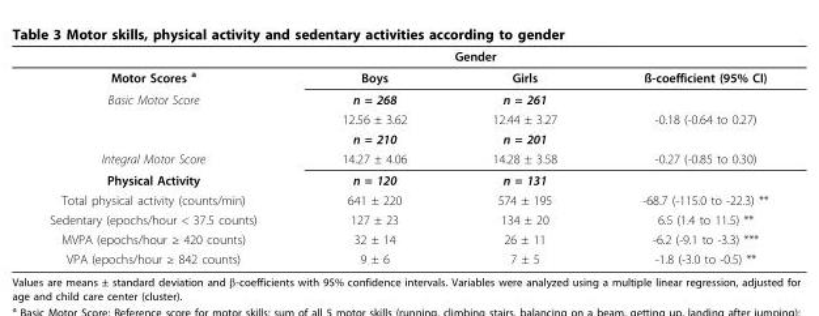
<table><thead><tr><td></td><td></td><td>Gender</td><td></td></tr></thead><tbody><tr><td>Motor Scores <sup>a</sup></td><td>Boys</td><td>Girls</td><td>ß-coefficient (95% CI)</td></tr><tr><td rowspan="3">Basic Motor Score</td><td>n = 268</td><td>n = 261</td><td></td></tr><tr><td>12.56 ± 3.62</td><td>12.44 ± 3.27</td><td>-0.18 (-0.64 to 0.27)</td></tr><tr><td>n = 210</td><td>n = 201</td><td></td></tr><tr><td>Integral Motor Score</td><td>14.27 ± 4.06</td><td>14.28 ± 3.58</td><td>-0.27 (-0.85 to 0.30)</td></tr><tr><td>Physical Activity</td><td>n = 120</td><td>n = 131</td><td></td></tr><tr><td>Total physical activity (counts/min)</td><td>641 ± 220</td><td>574 ± 195</td><td>-68.7 (-115.0 to -22.3) **</td></tr><tr><td>Sedentary (epochs/hour &lt; 37.5 counts)</td><td>127 ± 23</td><td>134 ± 20</td><td>6.5 (1.4 to 11.5) **</td></tr><tr><td>MVPA (epochs/hour ≥ 420 counts)</td><td>32 ± 14</td><td>26 ± 11</td><td>-6.2 (-9.1 to -3.3) ***</td></tr><tr><td>VPA (epochs/hour ≥ 842 counts)</td><td>9 ± 6</td><td>7 ± 5</td><td>-1.8 (-3.0 to -0.5) **</td></tr></tbody></table>